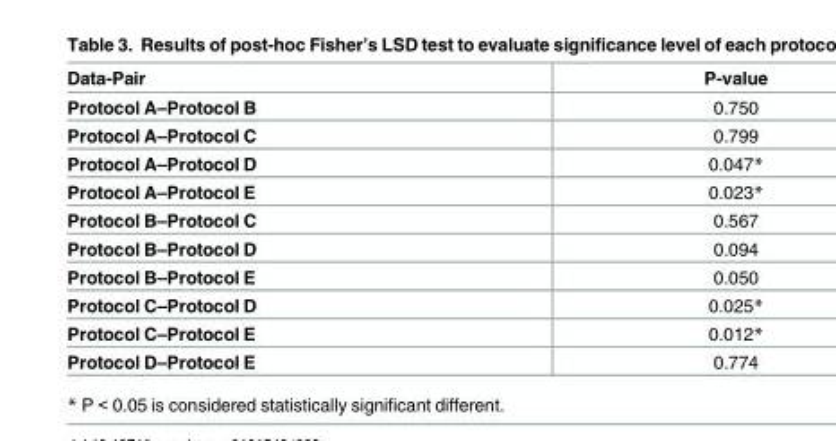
<table><thead><tr><td>Data-Pair</td><td>P-value</td></tr></thead><tbody><tr><td>Protocol A–Protocol B</td><td>0.750</td></tr><tr><td>Protocol A–Protocol C</td><td>0.799</td></tr><tr><td>Protocol A–Protocol D</td><td>0.047*</td></tr><tr><td>Protocol A–Protocol E</td><td>0.023*</td></tr><tr><td>Protocol B–Protocol C</td><td>0.567</td></tr><tr><td>Protocol B–Protocol D</td><td>0.094</td></tr><tr><td>Protocol B–Protocol E</td><td>0.050</td></tr><tr><td>Protocol C–Protocol D</td><td>0.025*</td></tr><tr><td>Protocol C–Protocol E</td><td>0.012*</td></tr><tr><td>Protocol D–Protocol E</td><td>0.774</td></tr></tbody></table>